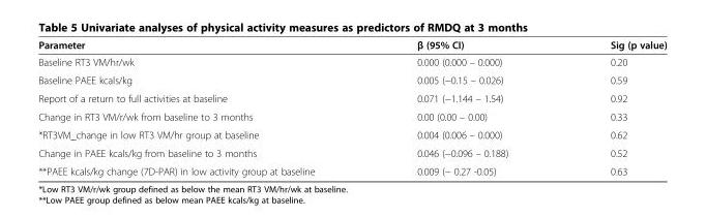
<table><thead><tr><td>Parameter</td><td>β (95% CI)</td><td>Sig (p value)</td></tr></thead><tbody><tr><td>Baseline RT3 VM/hr/wk</td><td>0.000 (0.000 – 0.000)</td><td>0.20</td></tr><tr><td>Baseline PAEE kcals/kg</td><td>0.005 (−0.15 – 0.026)</td><td>0.59</td></tr><tr><td>Report of a return to full activities at baseline</td><td>0.071 (−1.144 – 1.54)</td><td>0.92</td></tr><tr><td>Change in RT3 VM/r/wk from baseline to 3 months</td><td>0.00 (0.00 – 0.00)</td><td>0.33</td></tr><tr><td>*RT3VM_change in low RT3 VM/hr group at baseline</td><td>0.004 (0.006 – 0.000)</td><td>0.62</td></tr><tr><td>Change in PAEE kcals/kg from baseline to 3 months</td><td>0.046 (−0.096 – 0.188)</td><td>0.52</td></tr><tr><td>**PAEE kcals/kg change (7D-PAR) in low activity group at baseline</td><td>0.009 (− 0.27 -0.05)</td><td>0.63</td></tr></tbody></table>